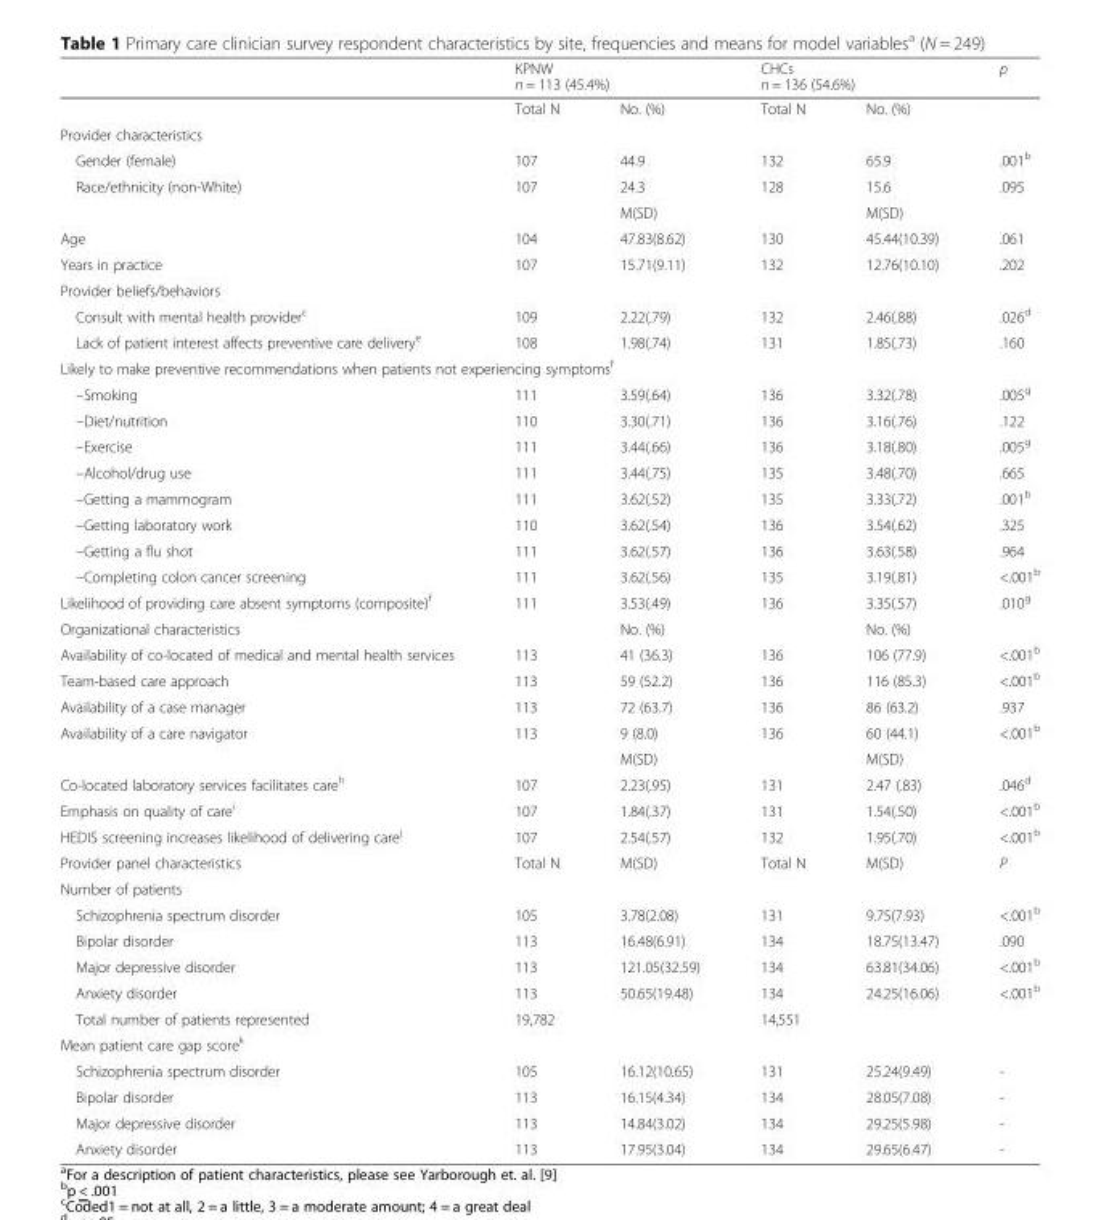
<table><thead><tr><td rowspan="2"></td><td colspan="2">KPNW n = 113 (45.4%)</td><td colspan="2">CHCs n = 136 (54.6%)</td><td rowspan="2">p</td></tr><tr><td>Total N</td><td>No. (%)</td><td>Total N</td><td>No. (%)</td></tr></thead><tbody><tr><td colspan="6">Provider characteristics</td></tr><tr><td>Gender (female)</td><td>107</td><td>44.9</td><td>132</td><td>65.9</td><td>.001<sup>b</sup></td></tr><tr><td rowspan="2">Race/ethnicity (non-White)</td><td>107</td><td>24.3</td><td>128</td><td>15.6</td><td>.095</td></tr><tr><td></td><td>M(SD)</td><td></td><td>M(SD)</td><td></td></tr><tr><td>Age</td><td>104</td><td>47.83(8.62)</td><td>130</td><td>45.44(10.39)</td><td>.061</td></tr><tr><td>Years in practice</td><td>107</td><td>15.71(9.11)</td><td>132</td><td>12.76(10.10)</td><td>.202</td></tr><tr><td colspan="6">Provider beliefs/behaviors</td></tr><tr><td>Consult with mental health provider<sup>c</sup></td><td>109</td><td>2.22(.79)</td><td>132</td><td>2.46(.88)</td><td>.026<sup>d</sup></td></tr><tr><td>Lack of patient interest affects preventive care delivery<sup>e</sup></td><td>108</td><td>1.98(.74)</td><td>131</td><td>1.85(.73)</td><td>.160</td></tr><tr><td colspan="6">Likely to make preventive recommendations when patients not experiencing symptoms<sup>f</sup></td></tr><tr><td>–Smoking</td><td>111</td><td>3.59(.64)</td><td>136</td><td>3.32(.78)</td><td>.005<sup>g</sup></td></tr><tr><td>–Diet/nutrition</td><td>110</td><td>3.30(.71)</td><td>136</td><td>3.16(.76)</td><td>.122</td></tr><tr><td>–Exercise</td><td>111</td><td>3.44(.66)</td><td>136</td><td>3.18(.80)</td><td>.005<sup>g</sup></td></tr><tr><td>–Alcohol/drug use</td><td>111</td><td>3.44(.75)</td><td>135</td><td>3.48(.70)</td><td>.665</td></tr><tr><td>–Getting a mammogram</td><td>111</td><td>3.62(.52)</td><td>135</td><td>3.33(.72)</td><td>.001<sup>b</sup></td></tr><tr><td>–Getting laboratory work</td><td>110</td><td>3.62(.54)</td><td>136</td><td>3.54(.62)</td><td>.325</td></tr><tr><td>–Getting a flu shot</td><td>111</td><td>3.62(.57)</td><td>136</td><td>3.63(.58)</td><td>.964</td></tr><tr><td>–Completing colon cancer screening</td><td>111</td><td>3.62(.56)</td><td>135</td><td>3.19(.81)</td><td>&lt;.001<sup>b</sup></td></tr><tr><td>Likelihood of providing care absent symptoms (composite)<sup>f</sup></td><td>111</td><td>3.53(.49)</td><td>136</td><td>3.35(.57)</td><td>.010<sup>g</sup></td></tr><tr><td>Organizational characteristics</td><td></td><td>No. (%)</td><td></td><td>No. (%)</td><td></td></tr><tr><td>Availability of co-located of medical and mental health services</td><td>113</td><td>41 (36.3)</td><td>136</td><td>106 (77.9)</td><td>&lt;.001<sup>b</sup></td></tr><tr><td>Team-based care approach</td><td>113</td><td>59 (52.2)</td><td>136</td><td>116 (85.3)</td><td>&lt;.001<sup>b</sup></td></tr><tr><td>Availability of a case manager</td><td>113</td><td>72 (63.7)</td><td>136</td><td>86 (63.2)</td><td>.937</td></tr><tr><td rowspan="2">Availability of a care navigator</td><td>113</td><td>9 (8.0)</td><td>136</td><td>60 (44.1)</td><td>&lt;.001<sup>b</sup></td></tr><tr><td></td><td>M(SD)</td><td></td><td>M(SD)</td><td></td></tr><tr><td>Co-located laboratory services facilitates care<sup>h</sup></td><td>107</td><td>2.23(.95)</td><td>131</td><td>2.47 (.83)</td><td>.046<sup>d</sup></td></tr><tr><td>Emphasis on quality of care<sup>i</sup></td><td>107</td><td>1.84(.37)</td><td>131</td><td>1.54(.50)</td><td>&lt;.001<sup>b</sup></td></tr><tr><td>HEDIS screening increases likelihood of delivering care<sup>j</sup></td><td>107</td><td>2.54(.57)</td><td>132</td><td>1.95(.70)</td><td>&lt;.001<sup>b</sup></td></tr><tr><td>Provider panel characteristics</td><td>Total N</td><td>M(SD)</td><td>Total N</td><td>M(SD)</td><td>P</td></tr><tr><td colspan="6">Number of patients</td></tr><tr><td>Schizophrenia spectrum disorder</td><td>105</td><td>3.78(2.08)</td><td>131</td><td>9.75(7.93)</td><td>&lt;.001<sup>b</sup></td></tr><tr><td>Bipolar disorder</td><td>113</td><td>16.48(6.91)</td><td>134</td><td>18.75(13.47)</td><td>.090</td></tr><tr><td>Major depressive disorder</td><td>113</td><td>121.05(32.59)</td><td>134</td><td>63.81(34.06)</td><td>&lt;.001<sup>b</sup></td></tr><tr><td>Anxiety disorder</td><td>113</td><td>50.65(19.48)</td><td>134</td><td>24.25(16.06)</td><td>&lt;.001<sup>b</sup></td></tr><tr><td>Total number of patients represented</td><td colspan="2">19,782</td><td colspan="2">14,551</td><td></td></tr><tr><td colspan="6">Mean patient care gap score<sup>k</sup></td></tr><tr><td>Schizophrenia spectrum disorder</td><td>105</td><td>16.12(10.65)</td><td>131</td><td>25.24(9.49)</td><td>-</td></tr><tr><td>Bipolar disorder</td><td>113</td><td>16.15(4.34)</td><td>134</td><td>28.05(7.08)</td><td>-</td></tr><tr><td>Major depressive disorder</td><td>113</td><td>14.84(3.02)</td><td>134</td><td>29.25(5.98)</td><td>-</td></tr><tr><td>Anxiety disorder</td><td>113</td><td>17.95(3.04)</td><td>134</td><td>29.65(6.47)</td><td>-</td></tr></tbody></table>